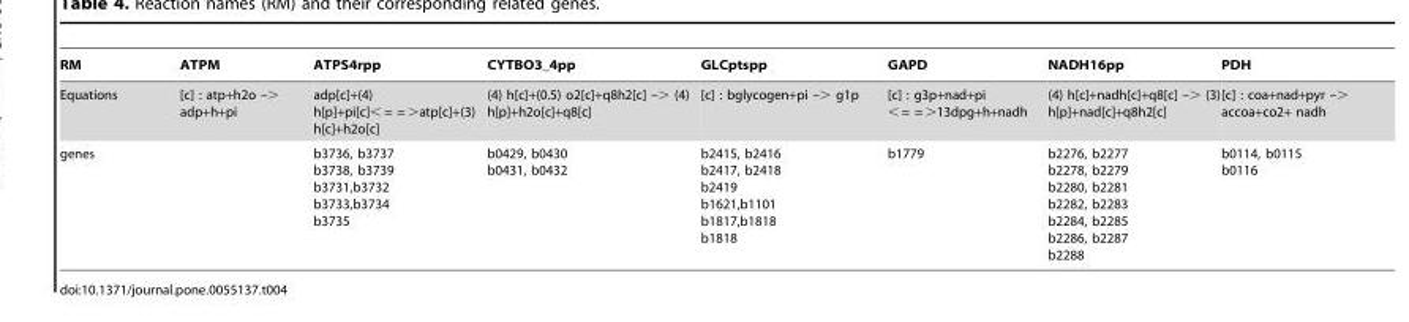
<table><thead><tr><td>RM</td><td>ATPM</td><td>ATPS4rpp</td><td>CYTBO3_4pp</td><td>GLCptspp</td><td>GAPD</td><td>NADH16pp</td><td>PDH</td></tr></thead><tbody><tr><td>Equations</td><td>[c] : atp+h2o –&gt; adp+h+pi</td><td>adp[c]+(4) h[p]+pi[c]&lt; = = &gt;atp[c]+(3) h[c]+h2o[c]</td><td>(4) h[c]+(0.5) o2[c]+q8h2[c] –&gt; (4) h[p]+h2o[c]+q8[c]</td><td>[c] : bglycogen+pi –&gt; g1p</td><td>[c] : g3p+nad+pi &lt; = = &gt;13dpg+h+nadh</td><td>(4) h[c]+nadh[c]+q8[c] –&gt; (3) h[p]+nad[c]+q8h2[c]</td><td>[c] : coa+nad+pyr –&gt; accoa+co2+ nadh</td></tr><tr><td>genes</td><td></td><td>b3736, b3737 b3738, b3739 b3731,b3732 b3733,b3734 b3735</td><td>b0429, b0430 b0431, b0432</td><td>b2415, b2416 b2417, b2418 b2419 b1621,b1101 b1817,b1818 b1818</td><td>b1779</td><td>b2276, b2277 b2278, b2279 b2280, b2281 b2282, b2283 b2284, b2285 b2286, b2287 b2288</td><td>b0114, b0115 b0116</td></tr></tbody></table>